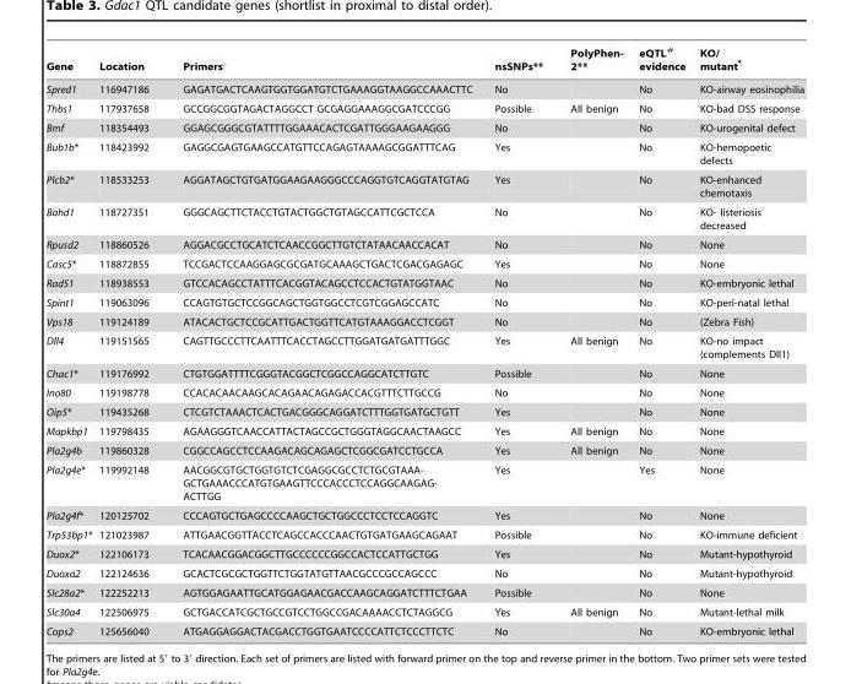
<table><thead><tr><td>Gene</td><td>Location</td><td>Primers‘</td><td>nsSNPs**</td><td>PolyPhen- 2**</td><td>eQTL# evidence</td><td>KO/ mutant¶</td></tr></thead><tbody><tr><td>Spred1</td><td>116947186</td><td>GAGATGACTCAAGTGGTGGATGTCTGAAAGGTAAGGCCAAACTTC</td><td>No</td><td></td><td>No</td><td>KO-airway eosinophilia</td></tr><tr><td>Thbs1</td><td>117937658</td><td>GCCGGCGGTAGACTAGGCCT GCGAGGAAAGGCGATCCCGG</td><td>Possible</td><td>All benign</td><td>No</td><td>KO-bad DSS response</td></tr><tr><td>Bmf</td><td>118354493</td><td>GGAGCGGGCGTATTTTGGAAACACTCGATTGGGAAGAAGGG</td><td>No</td><td></td><td>No</td><td>KO-urogenital defect</td></tr><tr><td>Bub1b*</td><td>118423992</td><td>GAGGCGAGTGAAGCCATGTTCCAGAGTAAAAGCGGATTTCAG</td><td>Yes</td><td></td><td>No</td><td>KO-hemopoetic defects</td></tr><tr><td>Plcb2*</td><td>118533253</td><td>AGGATAGCTGTGATGGAAGAAGGGCCCAGGTGTCAGGTATGTAG</td><td>Yes</td><td></td><td>No</td><td>KO-enhanced chemotaxis</td></tr><tr><td>Bahd1</td><td>118727351</td><td>GGGCAGCTTCTACCTGTACTGGCTGTAGCCATTCGCTCCA</td><td>No</td><td></td><td>No</td><td>KO- listeriosis decreased</td></tr><tr><td>Rpusd2</td><td>118860526</td><td>AGGACGCCTGCATCTCAACCGGCTTGTCTATAACAACCACAT</td><td>No</td><td></td><td>No</td><td>None</td></tr><tr><td>Casc5*</td><td>118872855</td><td>TCCGACTCCAAGGAGCGCGATGCAAAGCTGACTCGACGAGAGC</td><td>Yes</td><td></td><td>No</td><td>None</td></tr><tr><td>Rad51</td><td>118938553</td><td>GTCCACAGCCTATTTCACGGTACAGCCTCCACTGTATGGTAAC</td><td>No</td><td></td><td>No</td><td>KO-embryonic lethal</td></tr><tr><td>Spint1</td><td>119063096</td><td>CCAGTGTGCTCCGGCAGCTGGTGGCCTCGTCGGAGCCATC</td><td>No</td><td></td><td>No</td><td>KO-peri-natal lethal</td></tr><tr><td>Vps18</td><td>119124189</td><td>ATACACTGCTCCGCATTGACTGGTTCATGTAAAGGACCTCGGT</td><td>No</td><td></td><td>No</td><td>(Zebra Fish)</td></tr><tr><td>Dll4</td><td>119151565</td><td>CAGTTGCCCTTCAATTTCACCTAGCCTTGGATGATGATTTGGC</td><td>Yes</td><td>All benign</td><td>No</td><td>KO-no impact (complements Dll1)</td></tr><tr><td>Chac1*</td><td>119176992</td><td>CTGTGGATTTTCGGGTACGGCTCGGCCAGGCATCTTGTC</td><td>Possible</td><td></td><td>No</td><td>None</td></tr><tr><td>Ino80</td><td>119198778</td><td>CCACACAACAAGCACAGAACAGAGACCACGTTTCTTGCCG</td><td>No</td><td></td><td>No</td><td>None</td></tr><tr><td>Oip5*</td><td>119435268</td><td>CTCGTCTAAACTCACTGACGGGCAGGATCTTTGGTGATGCTGTT</td><td>Yes</td><td></td><td>No</td><td>None</td></tr><tr><td>Mapkbp1</td><td>119798435</td><td>AGAAGGGTCAACCATTACTAGCCGCTGGGTAGGCAACTAAGCC</td><td>Yes</td><td>All benign</td><td>No</td><td>None</td></tr><tr><td>Pla2g4b</td><td>119860328</td><td>CGGCCAGCCTCCAAGACAGCAGAGCTCGGCGATCCTGCCA</td><td>Yes</td><td>All benign</td><td>No</td><td>None</td></tr><tr><td>Pla2g4e*</td><td>119992148</td><td>AACGGCGTGCTGGTGTCTCGAGGCGCCTCTGCGTAAA- GCTGAAACCCATGTGAAGTTCCCACCCTCCAGGCAAGAG- ACTTGG</td><td>Yes</td><td></td><td>Yes</td><td>None</td></tr><tr><td>Pla2g4f*</td><td>120125702</td><td>CCCAGTGCTGAGCCCCAAGCTGCTGGCCCTCCTCCAGGTC</td><td>Yes</td><td></td><td>No</td><td>None</td></tr><tr><td>Trp53bp1*</td><td>121023987</td><td>ATTGAACGGTTACCTCAGCCACCCAACTGTGATGAAGCAGAAT</td><td>Possible</td><td></td><td>No</td><td>KO-immune deficient</td></tr><tr><td>Duox2*</td><td>122106173</td><td>TCACAACGGACGGCTTGCCCCCCGGCCACTCCATTGCTGG</td><td>Yes</td><td></td><td>No</td><td>Mutant-hypothyroid</td></tr><tr><td>Duoxa2</td><td>122124636</td><td>GCACTCGCGCTGGTTCTGGTATGTTAACGCCCGCCAGCCC</td><td>No</td><td></td><td>No</td><td>Mutant-hypothyroid</td></tr><tr><td>Slc28a2*</td><td>122252213</td><td>AGTGGAGAATTGCATGGAGAACGACCAAGCAGGATCTTTCTGAA</td><td>Possible</td><td></td><td>No</td><td>None</td></tr><tr><td>Slc30a4</td><td>122506975</td><td>GCTGACCATCGCTGCCGTCCTGGCCGACAAAACCTCTAGGCG</td><td>Yes</td><td>All benign</td><td>No</td><td>Mutant-lethal milk</td></tr><tr><td>Cops2</td><td>125656040</td><td>ATGAGGAGGACTACGACCTGGTGAATCCCCATTCTCCCTTCTC</td><td>No</td><td></td><td>No</td><td>KO-embryonic lethal</td></tr></tbody></table>